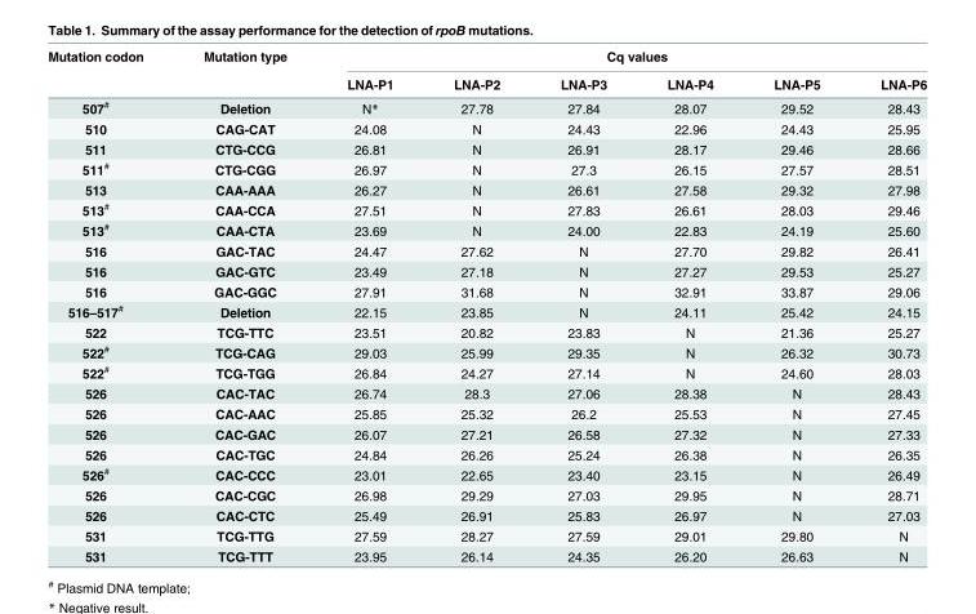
<table><thead><tr><td rowspan="2">Mutation codon</td><td rowspan="2">Mutation type</td><td colspan="6">Cq values</td></tr><tr><td>LNA-P1</td><td>LNA-P2</td><td>LNA-P3</td><td>LNA-P4</td><td>LNA-P5</td><td>LNA-P6</td></tr></thead><tbody><tr><td>507<sup>#</sup></td><td>Deletion</td><td>N*</td><td>27.78</td><td>27.84</td><td>28.07</td><td>29.52</td><td>28.43</td></tr><tr><td>510</td><td>CAG-CAT</td><td>24.08</td><td>N</td><td>24.43</td><td>22.96</td><td>24.43</td><td>25.95</td></tr><tr><td>511</td><td>CTG-CCG</td><td>26.81</td><td>N</td><td>26.91</td><td>28.17</td><td>29.46</td><td>28.66</td></tr><tr><td>511<sup>#</sup></td><td>CTG-CGG</td><td>26.97</td><td>N</td><td>27.3</td><td>26.15</td><td>27.57</td><td>28.51</td></tr><tr><td>513</td><td>CAA-AAA</td><td>26.27</td><td>N</td><td>26.61</td><td>27.58</td><td>29.32</td><td>27.98</td></tr><tr><td>513<sup>#</sup></td><td>CAA-CCA</td><td>27.51</td><td>N</td><td>27.83</td><td>26.61</td><td>28.03</td><td>29.46</td></tr><tr><td>513<sup>#</sup></td><td>CAA-CTA</td><td>23.69</td><td>N</td><td>24.00</td><td>22.83</td><td>24.19</td><td>25.60</td></tr><tr><td>516</td><td>GAC-TAC</td><td>24.47</td><td>27.62</td><td>N</td><td>27.70</td><td>29.82</td><td>26.41</td></tr><tr><td>516</td><td>GAC-GTC</td><td>23.49</td><td>27.18</td><td>N</td><td>27.27</td><td>29.53</td><td>25.27</td></tr><tr><td>516</td><td>GAC-GGC</td><td>27.91</td><td>31.68</td><td>N</td><td>32.91</td><td>33.87</td><td>29.06</td></tr><tr><td>516–517<sup>#</sup></td><td>Deletion</td><td>22.15</td><td>23.85</td><td>N</td><td>24.11</td><td>25.42</td><td>24.15</td></tr><tr><td>522</td><td>TCG-TTC</td><td>23.51</td><td>20.82</td><td>23.83</td><td>N</td><td>21.36</td><td>25.27</td></tr><tr><td>522<sup>#</sup></td><td>TCG-CAG</td><td>29.03</td><td>25.99</td><td>29.35</td><td>N</td><td>26.32</td><td>30.73</td></tr><tr><td>522<sup>#</sup></td><td>TCG-TGG</td><td>26.84</td><td>24.27</td><td>27.14</td><td>N</td><td>24.60</td><td>28.03</td></tr><tr><td>526</td><td>CAC-TAC</td><td>26.74</td><td>28.3</td><td>27.06</td><td>28.38</td><td>N</td><td>28.43</td></tr><tr><td>526</td><td>CAC-AAC</td><td>25.85</td><td>25.32</td><td>26.2</td><td>25.53</td><td>N</td><td>27.45</td></tr><tr><td>526</td><td>CAC-GAC</td><td>26.07</td><td>27.21</td><td>26.58</td><td>27.32</td><td>N</td><td>27.33</td></tr><tr><td>526</td><td>CAC-TGC</td><td>24.84</td><td>26.26</td><td>25.24</td><td>26.38</td><td>N</td><td>26.35</td></tr><tr><td>526<sup>#</sup></td><td>CAC-CCC</td><td>23.01</td><td>22.65</td><td>23.40</td><td>23.15</td><td>N</td><td>26.49</td></tr><tr><td>526</td><td>CAC-CGC</td><td>26.98</td><td>29.29</td><td>27.03</td><td>29.95</td><td>N</td><td>28.71</td></tr><tr><td>526</td><td>CAC-CTC</td><td>25.49</td><td>26.91</td><td>25.83</td><td>26.97</td><td>N</td><td>27.03</td></tr><tr><td>531</td><td>TCG-TTG</td><td>27.59</td><td>28.27</td><td>27.59</td><td>29.01</td><td>29.80</td><td>N</td></tr><tr><td>531</td><td>TCG-TTT</td><td>23.95</td><td>26.14</td><td>24.35</td><td>26.20</td><td>26.63</td><td>N</td></tr></tbody></table>